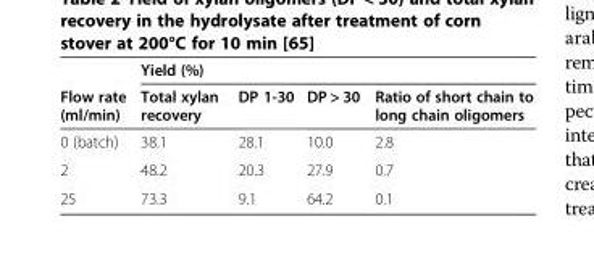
<table><thead><tr><td rowspan="2">Flow rate (ml/min)</td><td colspan="2">Yield (%)</td><td rowspan="2">DP &gt; 30</td><td rowspan="2">Ratio of short chain to long chain oligomers</td></tr><tr><td>Total xylan recovery</td><td>DP 1-30</td></tr></thead><tbody><tr><td>0 (batch)</td><td>38.1</td><td>28.1</td><td>10.0</td><td>2.8</td></tr><tr><td>2</td><td>48.2</td><td>20.3</td><td>27.9</td><td>0.7</td></tr><tr><td>25</td><td>73.3</td><td>9.1</td><td>64.2</td><td>0.1</td></tr></tbody></table>